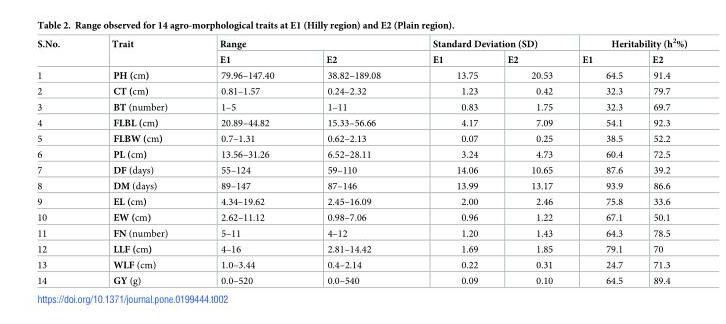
<table><thead><tr><td rowspan="2">S.No.</td><td rowspan="2">Trait</td><td colspan="2">Range</td><td colspan="2">Standard Deviation (SD)</td><td colspan="2">Heritability (h<sup>2</sup>%)</td></tr><tr><td>E1</td><td>E2</td><td>E1</td><td>E2</td><td>E1</td><td>E2</td></tr></thead><tbody><tr><td>1</td><td>PH (cm)</td><td>79.96–147.40</td><td>38.82–189.08</td><td>13.75</td><td>20.53</td><td>64.5</td><td>91.4</td></tr><tr><td>2</td><td>CT (cm)</td><td>0.81–1.57</td><td>0.24–2.32</td><td>1.23</td><td>0.42</td><td>32.3</td><td>79.7</td></tr><tr><td>3</td><td>BT (number)</td><td>1–5</td><td>1–11</td><td>0.83</td><td>1.75</td><td>32.3</td><td>69.7</td></tr><tr><td>4</td><td>FLBL (cm)</td><td>20.89–44.82</td><td>15.33–56.66</td><td>4.17</td><td>7.09</td><td>54.1</td><td>92.3</td></tr><tr><td>5</td><td>FLBW (cm)</td><td>0.7–1.31</td><td>0.62–2.13</td><td>0.07</td><td>0.25</td><td>38.5</td><td>52.2</td></tr><tr><td>6</td><td>PL (cm)</td><td>13.56–31.26</td><td>6.52–28.11</td><td>3.24</td><td>4.73</td><td>60.4</td><td>72.5</td></tr><tr><td>7</td><td>DF (days)</td><td>55–124</td><td>59–110</td><td>14.06</td><td>10.65</td><td>87.6</td><td>39.2</td></tr><tr><td>8</td><td>DM (days)</td><td>89–147</td><td>87–146</td><td>13.99</td><td>13.17</td><td>93.9</td><td>86.6</td></tr><tr><td>9</td><td>EL (cm)</td><td>4.34–19.62</td><td>2.45–16.09</td><td>2.00</td><td>2.46</td><td>75.8</td><td>33.6</td></tr><tr><td>10</td><td>EW (cm)</td><td>2.62–11.12</td><td>0.98–7.06</td><td>0.96</td><td>1.22</td><td>67.1</td><td>50.1</td></tr><tr><td>11</td><td>FN (number)</td><td>5–11</td><td>4–12</td><td>1.20</td><td>1.43</td><td>64.3</td><td>78.5</td></tr><tr><td>12</td><td>LLF (cm)</td><td>4–16</td><td>2.81–14.42</td><td>1.69</td><td>1.85</td><td>79.1</td><td>70</td></tr><tr><td>13</td><td>WLF (cm)</td><td>1.0–3.44</td><td>0.4–2.14</td><td>0.22</td><td>0.31</td><td>24.7</td><td>71.3</td></tr><tr><td>14</td><td>GY (g)</td><td>0.0–520</td><td>0.0–540</td><td>0.09</td><td>0.10</td><td>64.5</td><td>89.4</td></tr></tbody></table>